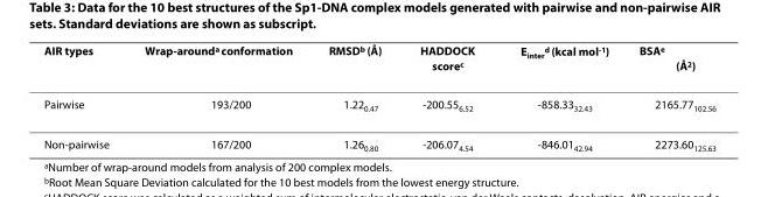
<table><thead><tr><td>AIR types</td><td>Wrap-around<sup>a</sup> conformation</td><td>RMSD<sup>b</sup> (Å)</td><td>HADDOCK score<sup>c</sup></td><td>E<sub>inter</sub><sup>d</sup> (kcal mol<sup>-1</sup>)</td><td>BSA<sup>e</sup> (Å<sup>2</sup>)</td></tr></thead><tbody><tr><td>Pairwise</td><td>193/200</td><td>1.22<sub>0.47</sub></td><td>-200.55<sub>6.52</sub></td><td>-858.33<sub>32.43</sub></td><td>2165.77<sub>102.56</sub></td></tr><tr><td>Non-pairwise</td><td>167/200</td><td>1.26<sub>0.80</sub></td><td>-206.07<sub>4.54</sub></td><td>-846.01<sub>42.94</sub></td><td>2273.60<sub>125.63</sub></td></tr></tbody></table>